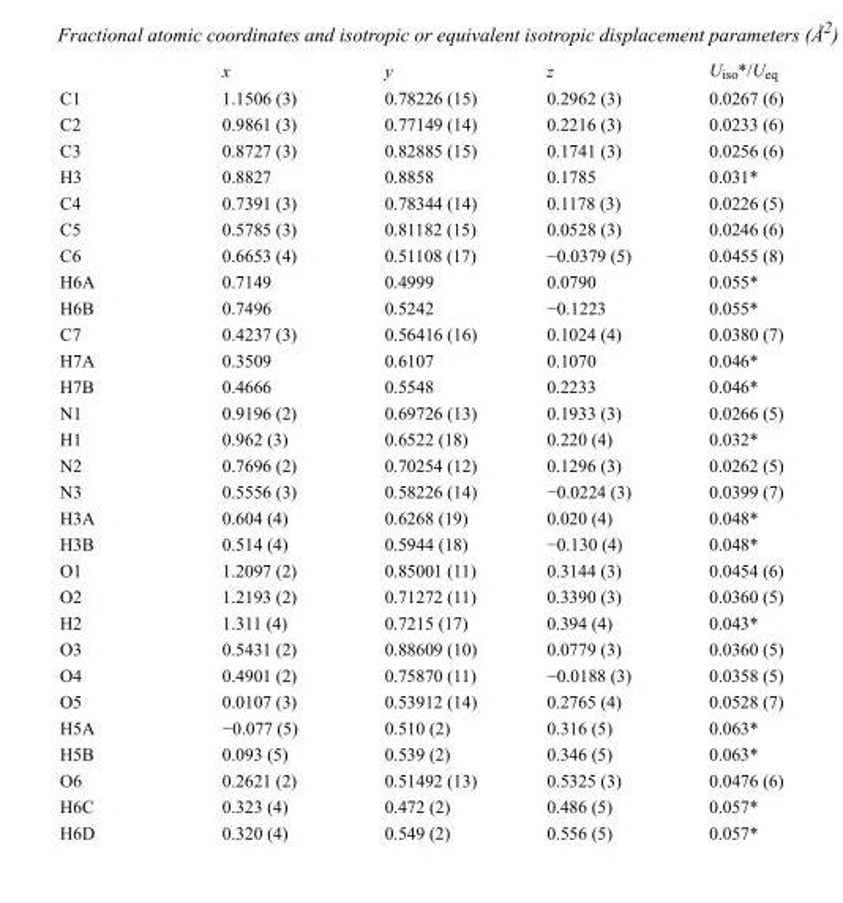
<table><thead><tr><td></td><td>x</td><td>y</td><td>z</td><td>U<sub>iso</sub>*/U<sub>eq</sub></td></tr></thead><tbody><tr><td>C1</td><td>1.1506 (3)</td><td>0.78226 (15)</td><td>0.2962 (3)</td><td>0.0267 (6)</td></tr><tr><td>C2</td><td>0.9861 (3)</td><td>0.77149 (14)</td><td>0.2216 (3)</td><td>0.0233 (6)</td></tr><tr><td>C3</td><td>0.8727 (3)</td><td>0.82885 (15)</td><td>0.1741 (3)</td><td>0.0256 (6)</td></tr><tr><td>H3</td><td>0.8827</td><td>0.8858</td><td>0.1785</td><td>0.031*</td></tr><tr><td>C4</td><td>0.7391 (3)</td><td>0.78344 (14)</td><td>0.1178 (3)</td><td>0.0226 (5)</td></tr><tr><td>C5</td><td>0.5785 (3)</td><td>0.81182 (15)</td><td>0.0528 (3)</td><td>0.0246 (6)</td></tr><tr><td>C6</td><td>0.6653 (4)</td><td>0.51108 (17)</td><td>−0.0379 (5)</td><td>0.0455 (8)</td></tr><tr><td>H6A</td><td>0.7149</td><td>0.4999</td><td>0.0790</td><td>0.055*</td></tr><tr><td>H6B</td><td>0.7496</td><td>0.5242</td><td>−0.1223</td><td>0.055*</td></tr><tr><td>C7</td><td>0.4237 (3)</td><td>0.56416 (16)</td><td>0.1024 (4)</td><td>0.0380 (7)</td></tr><tr><td>H7A</td><td>0.3509</td><td>0.6107</td><td>0.1070</td><td>0.046*</td></tr><tr><td>H7B</td><td>0.4666</td><td>0.5548</td><td>0.2233</td><td>0.046*</td></tr><tr><td>N1</td><td>0.9196 (2)</td><td>0.69726 (13)</td><td>0.1933 (3)</td><td>0.0266 (5)</td></tr><tr><td>H1</td><td>0.962 (3)</td><td>0.6522 (18)</td><td>0.220 (4)</td><td>0.032*</td></tr><tr><td>N2</td><td>0.7696 (2)</td><td>0.70254 (12)</td><td>0.1296 (3)</td><td>0.0262 (5)</td></tr><tr><td>N3</td><td>0.5556 (3)</td><td>0.58226 (14)</td><td>−0.0224 (3)</td><td>0.0399 (7)</td></tr><tr><td>H3A</td><td>0.604 (4)</td><td>0.6268 (19)</td><td>0.020 (4)</td><td>0.048*</td></tr><tr><td>H3B</td><td>0.514 (4)</td><td>0.5944 (18)</td><td>−0.130 (4)</td><td>0.048*</td></tr><tr><td>O1</td><td>1.2097 (2)</td><td>0.85001 (11)</td><td>0.3144 (3)</td><td>0.0454 (6)</td></tr><tr><td>O2</td><td>1.2193 (2)</td><td>0.71272 (11)</td><td>0.3390 (3)</td><td>0.0360 (5)</td></tr><tr><td>H2</td><td>1.311 (4)</td><td>0.7215 (17)</td><td>0.394 (4)</td><td>0.043*</td></tr><tr><td>O3</td><td>0.5431 (2)</td><td>0.88609 (10)</td><td>0.0779 (3)</td><td>0.0360 (5)</td></tr><tr><td>O4</td><td>0.4901 (2)</td><td>0.75870 (11)</td><td>−0.0188 (3)</td><td>0.0358 (5)</td></tr><tr><td>O5</td><td>0.0107 (3)</td><td>0.53912 (14)</td><td>0.2765 (4)</td><td>0.0528 (7)</td></tr><tr><td>H5A</td><td>−0.077 (5)</td><td>0.510 (2)</td><td>0.316 (5)</td><td>0.063*</td></tr><tr><td>H5B</td><td>0.093 (5)</td><td>0.539 (2)</td><td>0.346 (5)</td><td>0.063*</td></tr><tr><td>O6</td><td>0.2621 (2)</td><td>0.51492 (13)</td><td>0.5325 (3)</td><td>0.0476 (6)</td></tr><tr><td>H6C</td><td>0.323 (4)</td><td>0.472 (2)</td><td>0.486 (5)</td><td>0.057*</td></tr><tr><td>H6D</td><td>0.320 (4)</td><td>0.549 (2)</td><td>0.556 (5)</td><td>0.057*</td></tr></tbody></table>